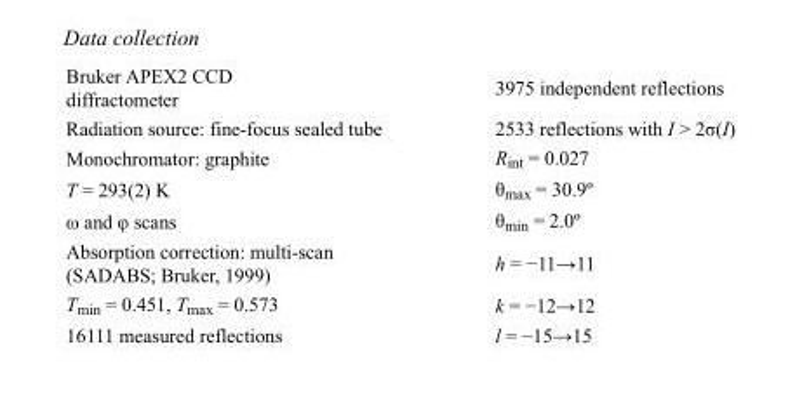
<table><tbody><tr><td>Bruker APEX2 CCD diffractometer</td><td>3975 independent reflections</td></tr><tr><td>Radiation source: fine-focus sealed tube</td><td>2533 reflections with I &gt; 2σ(I)</td></tr><tr><td>Monochromator: graphite</td><td>R<sub>int</sub> = 0.027</td></tr><tr><td>T = 293(2) K</td><td>θ<sub>max</sub> = 30.9º</td></tr><tr><td>ω and φ scans</td><td>θ<sub>min</sub> = 2.0º</td></tr><tr><td>Absorption correction: multi-scan (SADABS; Bruker, 1999)</td><td>h = −11→11</td></tr><tr><td>T<sub>min</sub> = 0.451, T<sub>max</sub> = 0.573</td><td>k = −12→12</td></tr><tr><td>16111 measured reflections</td><td>l = −15→15</td></tr></tbody></table>